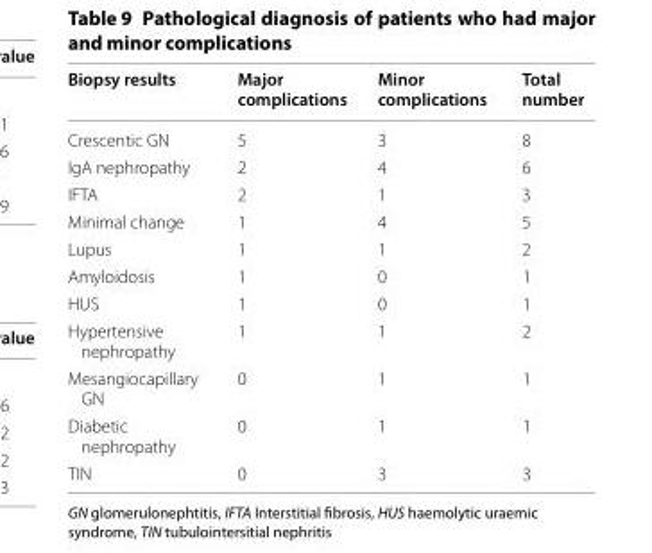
<table><thead><tr><td>Biopsy results</td><td>Major complications</td><td>Minor complications</td><td>Total number</td></tr></thead><tbody><tr><td>Crescentic GN</td><td>5</td><td>3</td><td>8</td></tr><tr><td>IgA nephropathy</td><td>2</td><td>4</td><td>6</td></tr><tr><td>IFTA</td><td>2</td><td>1</td><td>3</td></tr><tr><td>Minimal change</td><td>1</td><td>4</td><td>5</td></tr><tr><td>Lupus</td><td>1</td><td>1</td><td>2</td></tr><tr><td>Amyloidosis</td><td>1</td><td>0</td><td>1</td></tr><tr><td>HUS</td><td>1</td><td>0</td><td>1</td></tr><tr><td>Hypertensive nephropathy</td><td>1</td><td>1</td><td>2</td></tr><tr><td>Mesangiocapillary GN</td><td>0</td><td>1</td><td>1</td></tr><tr><td>Diabetic nephropathy</td><td>0</td><td>1</td><td>1</td></tr><tr><td>TIN</td><td>0</td><td>3</td><td>3</td></tr></tbody></table>